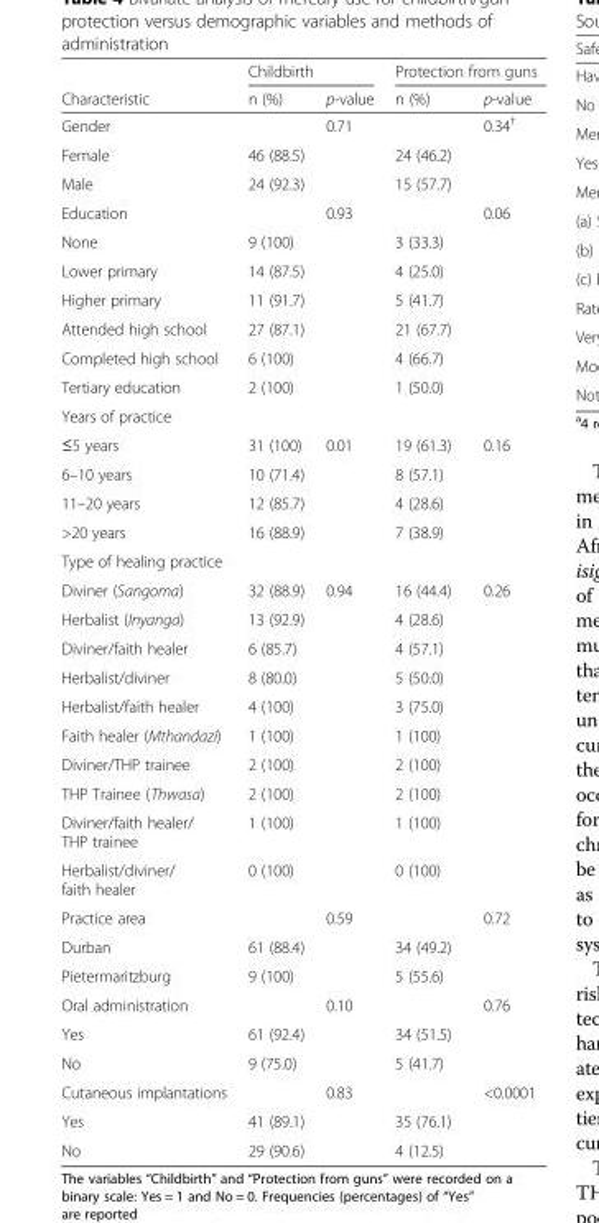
<table><thead><tr><td rowspan="2">Characteristic</td><td colspan="2">Childbirth</td><td colspan="2">Protection from guns</td></tr><tr><td>n (%)</td><td>p-value</td><td>n (%)</td><td>p-value</td></tr></thead><tbody><tr><td>Gender</td><td></td><td>0.71</td><td></td><td>0.34<sup>†</sup></td></tr><tr><td>Female</td><td>46 (88.5)</td><td></td><td>24 (46.2)</td><td></td></tr><tr><td>Male</td><td>24 (92.3)</td><td></td><td>15 (57.7)</td><td></td></tr><tr><td>Education</td><td></td><td>0.93</td><td></td><td>0.06</td></tr><tr><td>None</td><td>9 (100)</td><td></td><td>3 (33.3)</td><td></td></tr><tr><td>Lower primary</td><td>14 (87.5)</td><td></td><td>4 (25.0)</td><td></td></tr><tr><td>Higher primary</td><td>11 (91.7)</td><td></td><td>5 (41.7)</td><td></td></tr><tr><td>Attended high school</td><td>27 (87.1)</td><td></td><td>21 (67.7)</td><td></td></tr><tr><td>Completed high school</td><td>6 (100)</td><td></td><td>4 (66.7)</td><td></td></tr><tr><td>Tertiary education</td><td>2 (100)</td><td></td><td>1 (50.0)</td><td></td></tr><tr><td colspan="5">Years of practice</td></tr><tr><td>≤5 years</td><td>31 (100)</td><td>0.01</td><td>19 (61.3)</td><td>0.16</td></tr><tr><td>6–10 years</td><td>10 (71.4)</td><td></td><td>8 (57.1)</td><td></td></tr><tr><td>11–20 years</td><td>12 (85.7)</td><td></td><td>4 (28.6)</td><td></td></tr><tr><td>&gt;20 years</td><td>16 (88.9)</td><td></td><td>7 (38.9)</td><td></td></tr><tr><td colspan="5">Type of healing practice</td></tr><tr><td>Diviner (Sangoma)</td><td>32 (88.9)</td><td>0.94</td><td>16 (44.4)</td><td>0.26</td></tr><tr><td>Herbalist (Inyanga)</td><td>13 (92.9)</td><td></td><td>4 (28.6)</td><td></td></tr><tr><td>Diviner/faith healer</td><td>6 (85.7)</td><td></td><td>4 (57.1)</td><td></td></tr><tr><td>Herbalist/diviner</td><td>8 (80.0)</td><td></td><td>5 (50.0)</td><td></td></tr><tr><td>Herbalist/faith healer</td><td>4 (100)</td><td></td><td>3 (75.0)</td><td></td></tr><tr><td>Faith healer (Mthandazi)</td><td>1 (100)</td><td></td><td>1 (100)</td><td></td></tr><tr><td>Diviner/THP trainee</td><td>2 (100)</td><td></td><td>2 (100)</td><td></td></tr><tr><td>THP Trainee (Thwasa)</td><td>2 (100)</td><td></td><td>2 (100)</td><td></td></tr><tr><td>Diviner/faith healer/ THP trainee</td><td>1 (100)</td><td></td><td>1 (100)</td><td></td></tr><tr><td>Herbalist/diviner/ faith healer</td><td>0 (100)</td><td></td><td>0 (100)</td><td></td></tr><tr><td>Practice area</td><td></td><td>0.59</td><td></td><td>0.72</td></tr><tr><td>Durban</td><td>61 (88.4)</td><td></td><td>34 (49.2)</td><td></td></tr><tr><td>Pietermaritzburg</td><td>9 (100)</td><td></td><td>5 (55.6)</td><td></td></tr><tr><td>Oral administration</td><td></td><td>0.10</td><td></td><td>0.76</td></tr><tr><td>Yes</td><td>61 (92.4)</td><td></td><td>34 (51.5)</td><td></td></tr><tr><td>No</td><td>9 (75.0)</td><td></td><td>5 (41.7)</td><td></td></tr><tr><td>Cutaneous implantations</td><td></td><td>0.83</td><td></td><td>&lt;0.0001</td></tr><tr><td>Yes</td><td>41 (89.1)</td><td></td><td>35 (76.1)</td><td></td></tr><tr><td>No</td><td>29 (90.6)</td><td></td><td>4 (12.5)</td><td></td></tr></tbody></table>